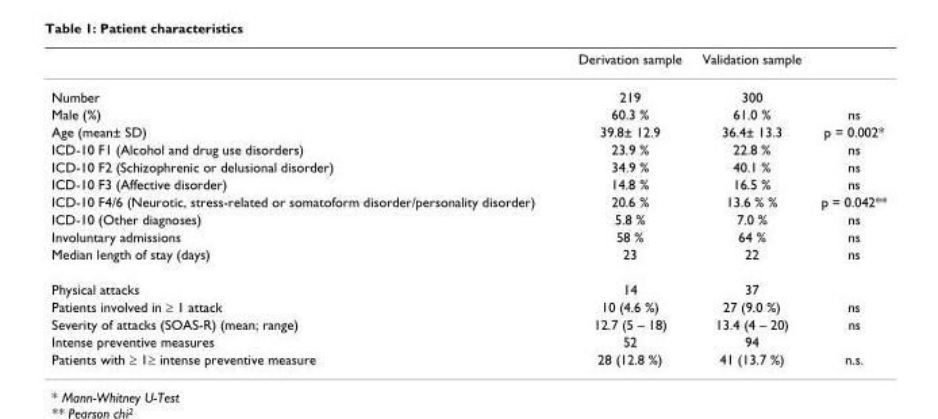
<table><thead><tr><td></td><td>Derivation sample</td><td>Validation sample</td><td></td></tr></thead><tbody><tr><td>Number</td><td>219</td><td>300</td><td></td></tr><tr><td>Male (%)</td><td>60.3 %</td><td>61.0 %</td><td>ns</td></tr><tr><td>Age (mean± SD)</td><td>39.8± 12.9</td><td>36.4± 13.3</td><td>p = 0.002*</td></tr><tr><td>ICD-10 F1 (Alcohol and drug use disorders)</td><td>23.9 %</td><td>22.8 %</td><td>ns</td></tr><tr><td>ICD-10 F2 (Schizophrenic or delusional disorder)</td><td>34.9 %</td><td>40.1 %</td><td>ns</td></tr><tr><td>ICD-10 F3 (Affective disorder)</td><td>14.8 %</td><td>16.5 %</td><td>ns</td></tr><tr><td>ICD-10 F4/6 (Neurotic, stress-related or somatoform disorder/personality disorder)</td><td>20.6 %</td><td>13.6 % %</td><td>p = 0.042**</td></tr><tr><td>ICD-10 (Other diagnoses)</td><td>5.8 %</td><td>7.0 %</td><td>ns</td></tr><tr><td>Involuntary admissions</td><td>58 %</td><td>64 %</td><td>ns</td></tr><tr><td>Median length of stay (days)</td><td>23</td><td>22</td><td>ns</td></tr><tr><td>Physical attacks</td><td>14</td><td>37</td><td></td></tr><tr><td>Patients involved in ≥ 1 attack</td><td>10 (4.6 %)</td><td>27 (9.0 %)</td><td>ns</td></tr><tr><td>Severity of attacks (SOAS-R) (mean; range)</td><td>12.7 (5 – 18)</td><td>13.4 (4 – 20)</td><td>ns</td></tr><tr><td>Intense preventive measures</td><td>52</td><td>94</td><td></td></tr><tr><td>Patients with ≥ 1≥ intense preventive measure</td><td>28 (12.8 %)</td><td>41 (13.7 %)</td><td>n.s.</td></tr></tbody></table>